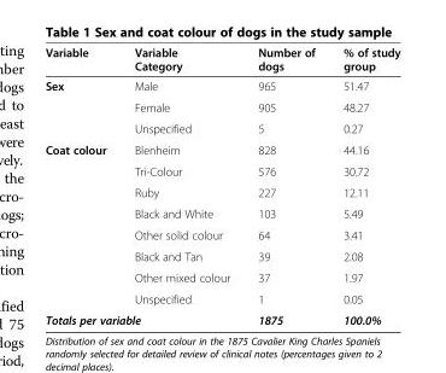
<table><thead><tr><td>Variable</td><td>Variable Category</td><td>Number of dogs</td><td>% of study group</td></tr></thead><tbody><tr><td rowspan="3">Sex</td><td>Male</td><td>965</td><td>51.47</td></tr><tr><td>Female</td><td>905</td><td>48.27</td></tr><tr><td>Unspecified</td><td>5</td><td>0.27</td></tr><tr><td rowspan="8">Coat colour</td><td>Blenheim</td><td>828</td><td>44.16</td></tr><tr><td>Tri-Colour</td><td>576</td><td>30.72</td></tr><tr><td>Ruby</td><td>227</td><td>12.11</td></tr><tr><td>Black and White</td><td>103</td><td>5.49</td></tr><tr><td>Other solid colour</td><td>64</td><td>3.41</td></tr><tr><td>Black and Tan</td><td>39</td><td>2.08</td></tr><tr><td>Other mixed colour</td><td>37</td><td>1.97</td></tr><tr><td>Unspecified</td><td>1</td><td>0.05</td></tr><tr><td colspan="2">Totals per variable</td><td>1875</td><td>100.0%</td></tr></tbody></table>